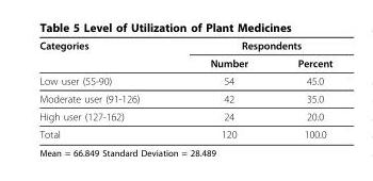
<table><thead><tr><td rowspan="2">Categories</td><td colspan="2">Respondents</td></tr><tr><td>Number</td><td>Percent</td></tr></thead><tbody><tr><td>Low user (55-90)</td><td>54</td><td>45.0</td></tr><tr><td>Moderate user (91-126)</td><td>42</td><td>35.0</td></tr><tr><td>High user (127-162)</td><td>24</td><td>20.0</td></tr><tr><td>Total</td><td>120</td><td>100.0</td></tr></tbody></table>